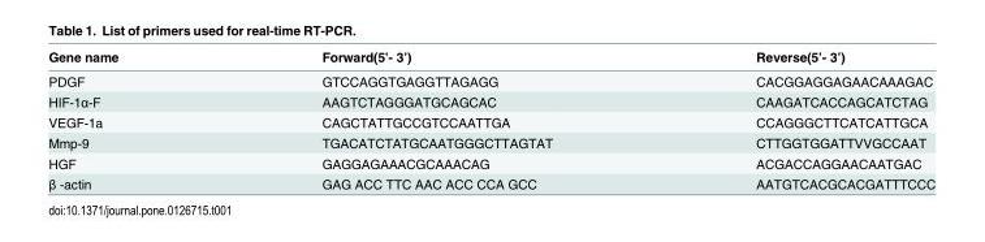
<table><thead><tr><td>Gene name</td><td>Forward(5’- 3’)</td><td>Reverse(5’- 3’)</td></tr></thead><tbody><tr><td>PDGF</td><td>GTCCAGGTGAGGTTAGAGG</td><td>CACGGAGGAGAACAAAGAC</td></tr><tr><td>HIF-1α-F</td><td>AAGTCTAGGGATGCAGCAC</td><td>CAAGATCACCAGCATCTAG</td></tr><tr><td>VEGF-1a</td><td>CAGCTATTGCCGTCCAATTGA</td><td>CCAGGGCTTCATCATTGCA</td></tr><tr><td>Mmp-9</td><td>TGACATCTATGCAATGGGCTTAGTAT</td><td>CTTGGTGGATTVVGCCAAT</td></tr><tr><td>HGF</td><td>GAGGAGAAACGCAAACAG</td><td>ACGACCAGGAACAATGAC</td></tr><tr><td>β -actin</td><td>GAG ACC TTC AAC ACC CCA GCC</td><td>AATGTCACGCACGATTTCCC</td></tr></tbody></table>